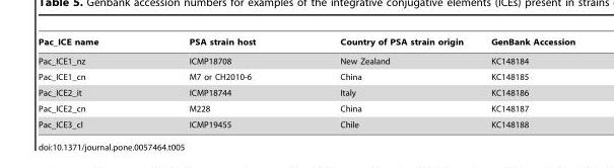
<table><thead><tr><td>Pac_ICE name</td><td>PSA strain host</td><td>Country of PSA strain origin</td><td>GenBank Accession</td></tr></thead><tbody><tr><td>Pac_ICE1_nz</td><td>ICMP18708</td><td>New Zealand</td><td>KC148184</td></tr><tr><td>Pac_ICE1_cn</td><td>M7 or CH2010-6</td><td>China</td><td>KC148185</td></tr><tr><td>Pac_ICE2_it</td><td>ICMP18744</td><td>Italy</td><td>KC148186</td></tr><tr><td>Pac_ICE2_cn</td><td>M228</td><td>China</td><td>KC148187</td></tr><tr><td>Pac_ICE3_cl</td><td>ICMP19455</td><td>Chile</td><td>KC148188</td></tr></tbody></table>